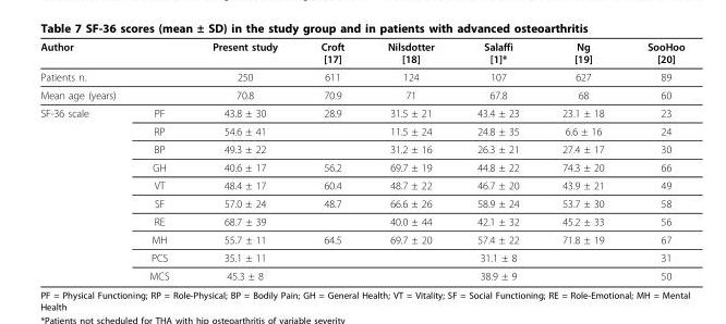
<table><thead><tr><td>Author</td><td></td><td>Present study</td><td>Croft [17]</td><td>Nilsdotter [18]</td><td>Salaffi [1]*</td><td>Ng [19]</td><td>SooHoo [20]</td></tr></thead><tbody><tr><td>Patients n.</td><td></td><td>250</td><td>611</td><td>124</td><td>107</td><td>627</td><td>89</td></tr><tr><td colspan="2">Mean age (years)</td><td>70.8</td><td>70.9</td><td>71</td><td>67.8</td><td>68</td><td>60</td></tr><tr><td rowspan="10">SF-36 scale</td><td>PF</td><td>43.8 ± 30</td><td>28.9</td><td>31.5 ± 21</td><td>43.4 ± 23</td><td>23.1 ± 18</td><td>23</td></tr><tr><td>RP</td><td>54.6 ± 41</td><td></td><td>11.5 ± 24</td><td>24.8 ± 35</td><td>6.6 ± 16</td><td>24</td></tr><tr><td>BP</td><td>49.3 ± 22</td><td></td><td>31.2 ± 16</td><td>26.3 ± 21</td><td>27.4 ± 17</td><td>30</td></tr><tr><td>GH</td><td>40.6 ± 17</td><td>56.2</td><td>69.7 ± 19</td><td>44.8 ± 22</td><td>74.3 ± 20</td><td>66</td></tr><tr><td>VT</td><td>48.4 ± 17</td><td>60.4</td><td>48.7 ± 22</td><td>46.7 ± 20</td><td>43.9 ± 21</td><td>49</td></tr><tr><td>SF</td><td>57.0 ± 24</td><td>48.7</td><td>66.6 ± 26</td><td>58.9 ± 24</td><td>53.7 ± 30</td><td>58</td></tr><tr><td>RE</td><td>68.7 ± 39</td><td></td><td>40.0 ± 44</td><td>42.1 ± 32</td><td>45.2 ± 33</td><td>56</td></tr><tr><td>MH</td><td>55.7 ± 11</td><td>64.5</td><td>69.7 ± 20</td><td>57.4 ± 22</td><td>71.8 ± 19</td><td>67</td></tr><tr><td>PCS</td><td>35.1 ± 11</td><td></td><td></td><td>31.1 ± 8</td><td></td><td>31</td></tr><tr><td>MCS</td><td>45.3 ± 8</td><td></td><td></td><td>38.9 ± 9</td><td></td><td>50</td></tr></tbody></table>